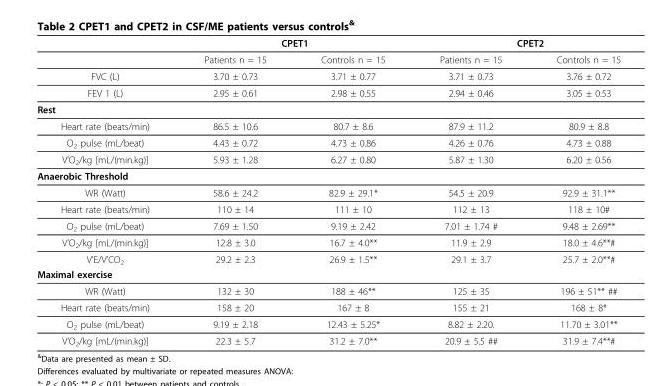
<table><thead><tr><td rowspan="2"></td><td colspan="2">CPET1</td><td colspan="2">CPET2</td></tr><tr><td>Patients n = 15</td><td>Controls n = 15</td><td>Patients n = 15</td><td>Controls n = 15</td></tr></thead><tbody><tr><td>FVC (L)</td><td>3.70 ± 0.73</td><td>3.71 ± 0.77</td><td>3.71 ± 0.73</td><td>3.76 ± 0.72</td></tr><tr><td>FEV 1 (L)</td><td>2.95 ± 0.61</td><td>2.98 ± 0.55</td><td>2.94 ± 0.46</td><td>3.05 ± 0.53</td></tr><tr><td colspan="5">Rest</td></tr><tr><td>Heart rate (beats/min)</td><td>86.5 ± 10.6</td><td>80.7 ± 8.6</td><td>87.9 ± 11.2</td><td>80.9 ± 8.8</td></tr><tr><td>O<sub>2</sub> pulse (mL/beat)</td><td>4.43 ± 0.72</td><td>4.73 ± 0.86</td><td>4.26 ± 0.76</td><td>4.73 ± 0.88</td></tr><tr><td>V’O<sub>2</sub>/kg [mL/(min.kg)]</td><td>5.93 ± 1.28</td><td>6.27 ± 0.80</td><td>5.87 ± 1.30</td><td>6.20 ± 0.56</td></tr><tr><td colspan="5">Anaerobic Threshold</td></tr><tr><td>WR (Watt)</td><td>58.6 ± 24.2</td><td>82.9 ± 29.1*</td><td>54.5 ± 20.9</td><td>92.9 ± 31.1**</td></tr><tr><td>Heart rate (beats/min)</td><td>110 ± 14</td><td>111 ± 10</td><td>112 ± 13</td><td>118 ± 10#</td></tr><tr><td>O<sub>2</sub> pulse (mL/beat)</td><td>7.69 ± 1.50</td><td>9.19 ± 2.42</td><td>7.01 ± 1.74 #</td><td>9.48 ± 2.69**</td></tr><tr><td>V’O<sub>2</sub>/kg [mL/(min.kg)]</td><td>12.8 ± 3.0</td><td>16.7 ± 4.0**</td><td>11.9 ± 2.9</td><td>18.0 ± 4.6**#</td></tr><tr><td>V’E/V’CO<sub>2</sub></td><td>29.2 ± 2.3</td><td>26.9 ± 1.5**</td><td>29.1 ± 3.7</td><td>25.7 ± 2.0**#</td></tr><tr><td colspan="5">Maximal exercise</td></tr><tr><td>WR (Watt)</td><td>132 ± 30</td><td>188 ± 46**</td><td>125 ± 35</td><td>196 ± 51** ##</td></tr><tr><td>Heart rate (beats/min)</td><td>158 ± 20</td><td>167 ± 8</td><td>155 ± 21</td><td>168 ± 8*</td></tr><tr><td>O<sub>2</sub> pulse (mL/beat)</td><td>9.19 ± 2.18</td><td>12.43 ± 5.25*</td><td>8.82 ± 2.20.</td><td>11.70 ± 3.01**</td></tr><tr><td>V’O<sub>2</sub>/kg [mL/(min.kg)]</td><td>22.3 ± 5.7</td><td>31.2 ± 7.0**</td><td>20.9 ± 5.5 ##</td><td>31.9 ± 7.4**#</td></tr></tbody></table>